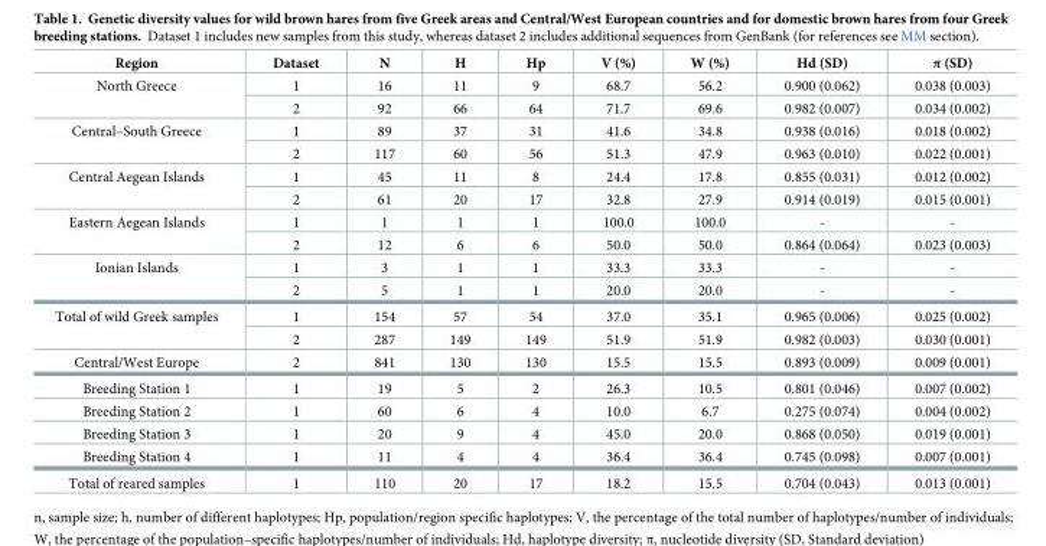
<table><thead><tr><td>Region</td><td>Dataset</td><td>N</td><td>H</td><td>Hp</td><td>V (%)</td><td>W (%)</td><td>Hd (SD)</td><td>π (SD)</td></tr></thead><tbody><tr><td rowspan="2">North Greece</td><td>1</td><td>16</td><td>11</td><td>9</td><td>68.7</td><td>56.2</td><td>0.900 (0.062)</td><td>0.038 (0.003)</td></tr><tr><td>2</td><td>92</td><td>66</td><td>64</td><td>71.7</td><td>69.6</td><td>0.982 (0.007)</td><td>0.034 (0.002)</td></tr><tr><td rowspan="2">Central–South Greece</td><td>1</td><td>89</td><td>37</td><td>31</td><td>41.6</td><td>34.8</td><td>0.938 (0.016)</td><td>0.018 (0.002)</td></tr><tr><td>2</td><td>117</td><td>60</td><td>56</td><td>51.3</td><td>47.9</td><td>0.963 (0.010)</td><td>0.022 (0.001)</td></tr><tr><td rowspan="2">Central Aegean Islands</td><td>1</td><td>45</td><td>11</td><td>8</td><td>24.4</td><td>17.8</td><td>0.855 (0.031)</td><td>0.012 (0.002)</td></tr><tr><td>2</td><td>61</td><td>20</td><td>17</td><td>32.8</td><td>27.9</td><td>0.914 (0.019)</td><td>0.015 (0.001)</td></tr><tr><td rowspan="2">Eastern Aegean Islands</td><td>1</td><td>1</td><td>1</td><td>1</td><td>100.0</td><td>100.0</td><td>-</td><td>-</td></tr><tr><td>2</td><td>12</td><td>6</td><td>6</td><td>50.0</td><td>50.0</td><td>0.864 (0.064)</td><td>0.023 (0.003)</td></tr><tr><td rowspan="2">Ionian Islands</td><td>1</td><td>3</td><td>1</td><td>1</td><td>33.3</td><td>33.3</td><td>-</td><td>-</td></tr><tr><td>2</td><td>5</td><td>1</td><td>1</td><td>20.0</td><td>20.0</td><td>-</td><td>-</td></tr><tr><td rowspan="2">Total of wild Greek samples</td><td>1</td><td>154</td><td>57</td><td>54</td><td>37.0</td><td>35.1</td><td>0.965 (0.006)</td><td>0.025 (0.002)</td></tr><tr><td>2</td><td>287</td><td>149</td><td>149</td><td>51.9</td><td>51.9</td><td>0.982 (0.003)</td><td>0.030 (0.001)</td></tr><tr><td>Central/West Europe</td><td>2</td><td>841</td><td>130</td><td>130</td><td>15.5</td><td>15.5</td><td>0.893 (0.009)</td><td>0.009 (0.001)</td></tr><tr><td>Breeding Station 1</td><td>1</td><td>19</td><td>5</td><td>2</td><td>26.3</td><td>10.5</td><td>0.801 (0.046)</td><td>0.007 (0.002)</td></tr><tr><td>Breeding Station 2</td><td>1</td><td>60</td><td>6</td><td>4</td><td>10.0</td><td>6.7</td><td>0.275 (0.074)</td><td>0.004 (0.002)</td></tr><tr><td>Breeding Station 3</td><td>1</td><td>20</td><td>9</td><td>4</td><td>45.0</td><td>20.0</td><td>0.868 (0.050)</td><td>0.019 (0.001)</td></tr><tr><td>Breeding Station 4</td><td>1</td><td>11</td><td>4</td><td>4</td><td>36.4</td><td>36.4</td><td>0.745 (0.098)</td><td>0.007 (0.001)</td></tr><tr><td>Total of reared samples</td><td>1</td><td>110</td><td>20</td><td>17</td><td>18.2</td><td>15.5</td><td>0.704 (0.043)</td><td>0.013 (0.001)</td></tr></tbody></table>